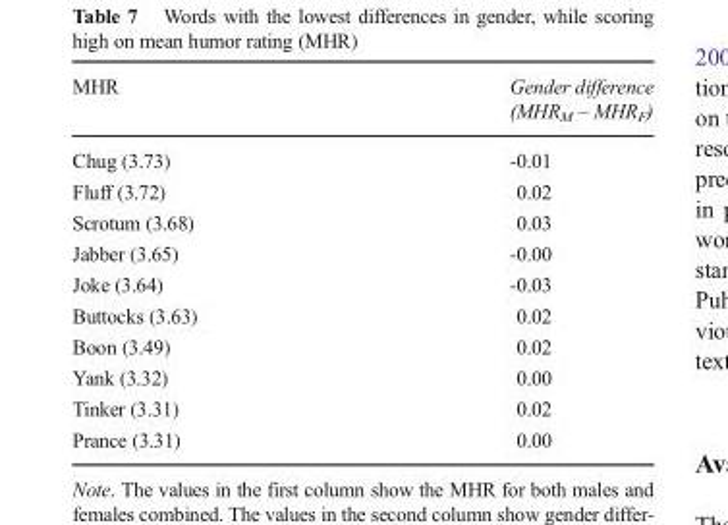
<table><thead><tr><td>MHR</td><td>Gender difference (MHR<sub>M</sub> – MHR<sub>F</sub>)</td></tr></thead><tbody><tr><td>Chug (3.73)</td><td>-0.01</td></tr><tr><td>Fluff (3.72)</td><td>0.02</td></tr><tr><td>Scrotum (3.68)</td><td>0.03</td></tr><tr><td>Jabber (3.65)</td><td>-0.00</td></tr><tr><td>Joke (3.64)</td><td>-0.03</td></tr><tr><td>Buttocks (3.63)</td><td>0.02</td></tr><tr><td>Boon (3.49)</td><td>0.02</td></tr><tr><td>Yank (3.32)</td><td>0.00</td></tr><tr><td>Tinker (3.31)</td><td>0.02</td></tr><tr><td>Prance (3.31)</td><td>0.00</td></tr></tbody></table>